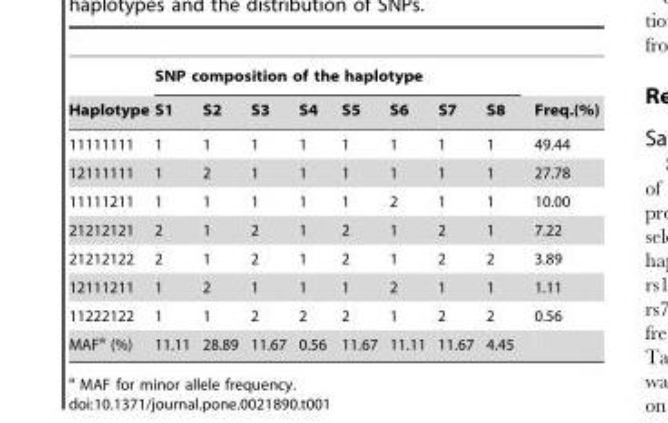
<table><thead><tr><td rowspan="2">Haplotype</td><td colspan="8">SNP composition of the haplotype</td><td rowspan="2">Freq.(%)</td></tr><tr><td>S1</td><td>S2</td><td>S3</td><td>S4</td><td>S5</td><td>S6</td><td>S7</td><td>S8</td></tr></thead><tbody><tr><td>11111111</td><td>1</td><td>1</td><td>1</td><td>1</td><td>1</td><td>1</td><td>1</td><td>1</td><td>49.44</td></tr><tr><td>12111111</td><td>1</td><td>2</td><td>1</td><td>1</td><td>1</td><td>1</td><td>1</td><td>1</td><td>27.78</td></tr><tr><td>11111211</td><td>1</td><td>1</td><td>1</td><td>1</td><td>1</td><td>2</td><td>1</td><td>1</td><td>10.00</td></tr><tr><td>21212121</td><td>2</td><td>1</td><td>2</td><td>1</td><td>2</td><td>1</td><td>2</td><td>1</td><td>7.22</td></tr><tr><td>21212122</td><td>2</td><td>1</td><td>2</td><td>1</td><td>2</td><td>1</td><td>2</td><td>2</td><td>3.89</td></tr><tr><td>12111211</td><td>1</td><td>2</td><td>1</td><td>1</td><td>1</td><td>2</td><td>1</td><td>1</td><td>1.11</td></tr><tr><td>11222122</td><td>1</td><td>1</td><td>2</td><td>2</td><td>2</td><td>1</td><td>2</td><td>2</td><td>0.56</td></tr><tr><td>MAF<sup>a</sup> (%)</td><td>11.11</td><td>28.89</td><td>11.67</td><td>0.56</td><td>11.67</td><td>11.11</td><td>11.67</td><td>4.45</td><td></td></tr></tbody></table>